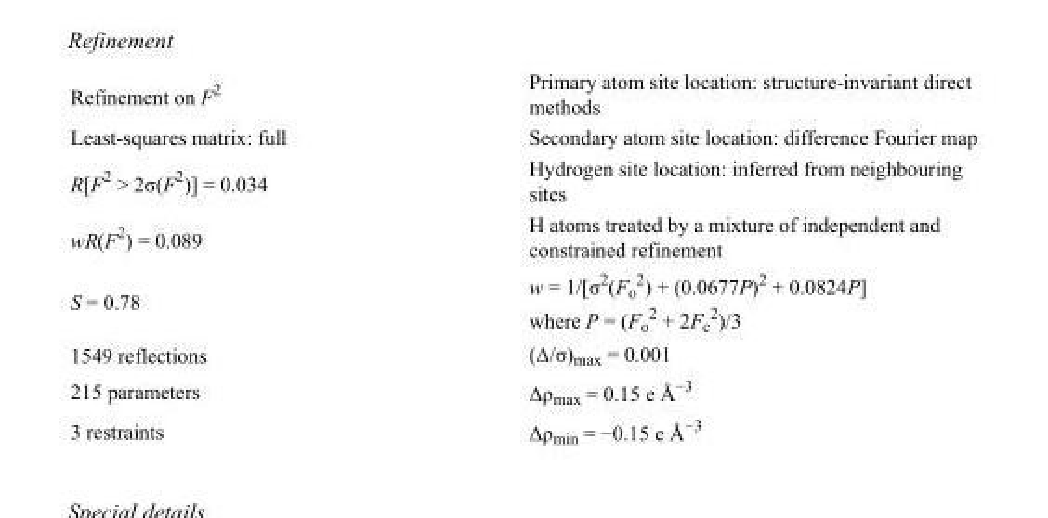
<table><tbody><tr><td>Refinement on F<sup>2</sup></td><td>Primary atom site location: structure-invariant direct methods</td></tr><tr><td>Least-squares matrix: full</td><td>Secondary atom site location: difference Fourier map</td></tr><tr><td>R[F<sup>2</sup> &gt; 2σ(F<sup>2</sup>)] = 0.034</td><td>Hydrogen site location: inferred from neighbouring sites</td></tr><tr><td>wR(F<sup>2</sup>) = 0.089</td><td>H atoms treated by a mixture of independent and constrained refinement</td></tr><tr><td>S = 0.78</td><td>w = 1/[σ<sup>2</sup>(F<sub>o</sub> <sup>2</sup>) + (0.0677P)<sup>2</sup> + 0.0824P] where P = (F<sub>o</sub> <sup>2</sup> + 2F<sub>c</sub> <sup>2</sup>)/3</td></tr><tr><td>1549 reflections</td><td>(Δ/σ)<sub>max</sub> = 0.001</td></tr><tr><td>215 parameters</td><td>Δρ<sub>max</sub> = 0.15 e Å<sup>−3</sup></td></tr><tr><td>3 restraints</td><td>Δρ<sub>min</sub> = −0.15 e Å<sup>−3</sup></td></tr></tbody></table>